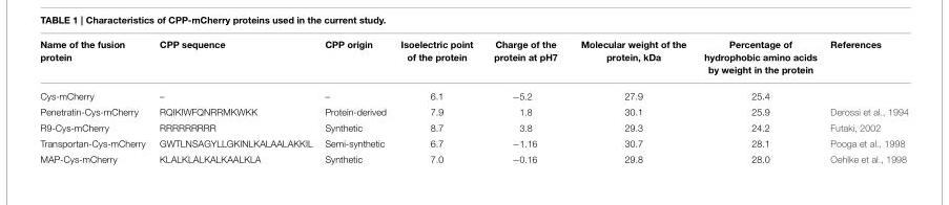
<table><thead><tr><td>Name of the fusion protein</td><td>CPP sequence</td><td>CPP origin</td><td>Isoelectric point of the protein</td><td>Charge of the protein at pH7</td><td>Molecular weight of the protein, kDa</td><td>Percentage of hydrophobic amino acids by weight in the protein</td><td>References</td></tr></thead><tbody><tr><td>Cys-mCherry</td><td>–</td><td>–</td><td>6.1</td><td>−5.2</td><td>27.9</td><td>25.4</td><td></td></tr><tr><td>Penetratin-Cys-mCherry</td><td>RQIKIWFQNRRMKWKK</td><td>Protein-derived</td><td>7.9</td><td>1.8</td><td>30.1</td><td>25.9</td><td>Derossi et al., 1994</td></tr><tr><td>R9-Cys-mCherry</td><td>RRRRRRRRR</td><td>Synthetic</td><td>8.7</td><td>3.8</td><td>29.3</td><td>24.2</td><td>Futaki, 2002</td></tr><tr><td>Transportan-Cys-mCherry</td><td>GWTLNSAGYLLGKINLKALAALAKKIL</td><td>Semi-synthetic</td><td>6.7</td><td>−1.16</td><td>30.7</td><td>28.1</td><td>Pooga et al., 1998</td></tr><tr><td>MAP-Cys-mCherry</td><td>KLALKLALKALKAALKLA</td><td>Synthetic</td><td>7.0</td><td>−0.16</td><td>29.8</td><td>28.0</td><td>Oehlke et al., 1998</td></tr></tbody></table>